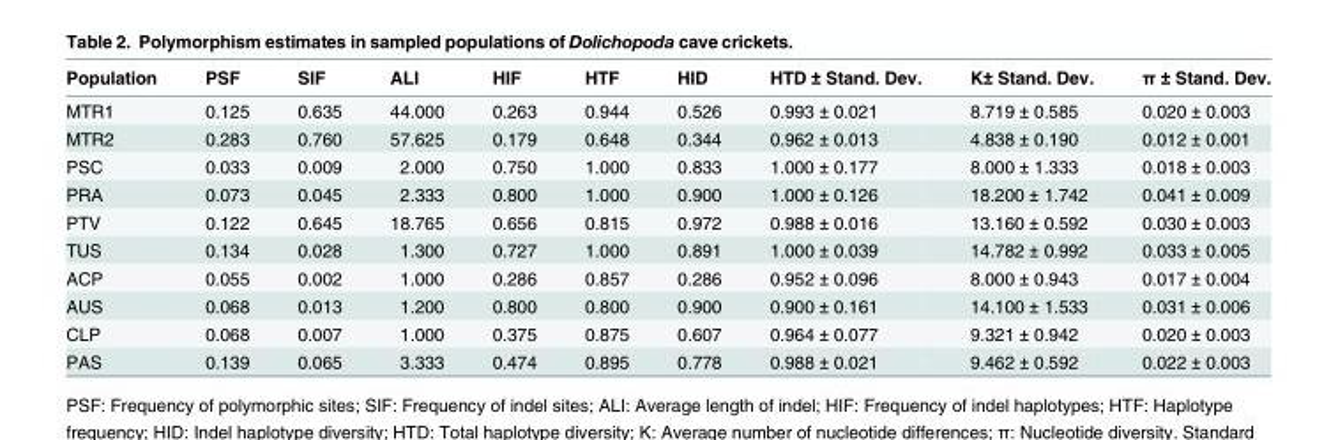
<table><thead><tr><td>Population</td><td>PSF</td><td>SIF</td><td>ALI</td><td>HIF</td><td>HTF</td><td>HID</td><td>HTD ± Stand. Dev.</td><td>K± Stand. Dev.</td><td>π ± Stand. Dev.</td></tr></thead><tbody><tr><td>MTR1</td><td>0.125</td><td>0.635</td><td>44.000</td><td>0.263</td><td>0.944</td><td>0.526</td><td>0.993 ± 0.021</td><td>8.719 ± 0.585</td><td>0.020 ± 0.003</td></tr><tr><td>MTR2</td><td>0.283</td><td>0.760</td><td>57.625</td><td>0.179</td><td>0.648</td><td>0.344</td><td>0.962 ± 0.013</td><td>4.838 ± 0.190</td><td>0.012 ± 0.001</td></tr><tr><td>PSC</td><td>0.033</td><td>0.009</td><td>2.000</td><td>0.750</td><td>1.000</td><td>0.833</td><td>1.000 ± 0.177</td><td>8.000 ± 1.333</td><td>0.018 ± 0.003</td></tr><tr><td>PRA</td><td>0.073</td><td>0.045</td><td>2.333</td><td>0.800</td><td>1.000</td><td>0.900</td><td>1.000 ± 0.126</td><td>18.200 ± 1.742</td><td>0.041 ± 0.009</td></tr><tr><td>PTV</td><td>0.122</td><td>0.645</td><td>18.765</td><td>0.656</td><td>0.815</td><td>0.972</td><td>0.988 ± 0.016</td><td>13.160 ± 0.592</td><td>0.030 ± 0.003</td></tr><tr><td>TUS</td><td>0.134</td><td>0.028</td><td>1.300</td><td>0.727</td><td>1.000</td><td>0.891</td><td>1.000 ± 0.039</td><td>14.782 ± 0.992</td><td>0.033 ± 0.005</td></tr><tr><td>ACP</td><td>0.055</td><td>0.002</td><td>1.000</td><td>0.286</td><td>0.857</td><td>0.286</td><td>0.952 ± 0.096</td><td>8.000 ± 0.943</td><td>0.017 ± 0.004</td></tr><tr><td>AUS</td><td>0.068</td><td>0.013</td><td>1.200</td><td>0.800</td><td>0.800</td><td>0.900</td><td>0.900 ± 0.161</td><td>14.100 ± 1.533</td><td>0.031 ± 0.006</td></tr><tr><td>CLP</td><td>0.068</td><td>0.007</td><td>1.000</td><td>0.375</td><td>0.875</td><td>0.607</td><td>0.964 ± 0.077</td><td>9.321 ± 0.942</td><td>0.020 ± 0.003</td></tr><tr><td>PAS</td><td>0.139</td><td>0.065</td><td>3.333</td><td>0.474</td><td>0.895</td><td>0.778</td><td>0.988 ± 0.021</td><td>9.462 ± 0.592</td><td>0.022 ± 0.003</td></tr></tbody></table>